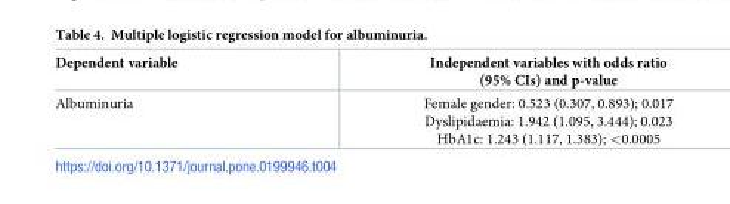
<table><thead><tr><td>Dependent variable</td><td>Independent variables with odds ratio (95% CIs) and p-value</td></tr></thead><tbody><tr><td>Albuminuria</td><td>Female gender: 0.523 (0.307, 0.893); 0.017 Dyslipidaemia: 1.942 (1.095, 3.444); 0.023 HbA1c: 1.243 (1.117, 1.383); &lt;0.0005</td></tr></tbody></table>